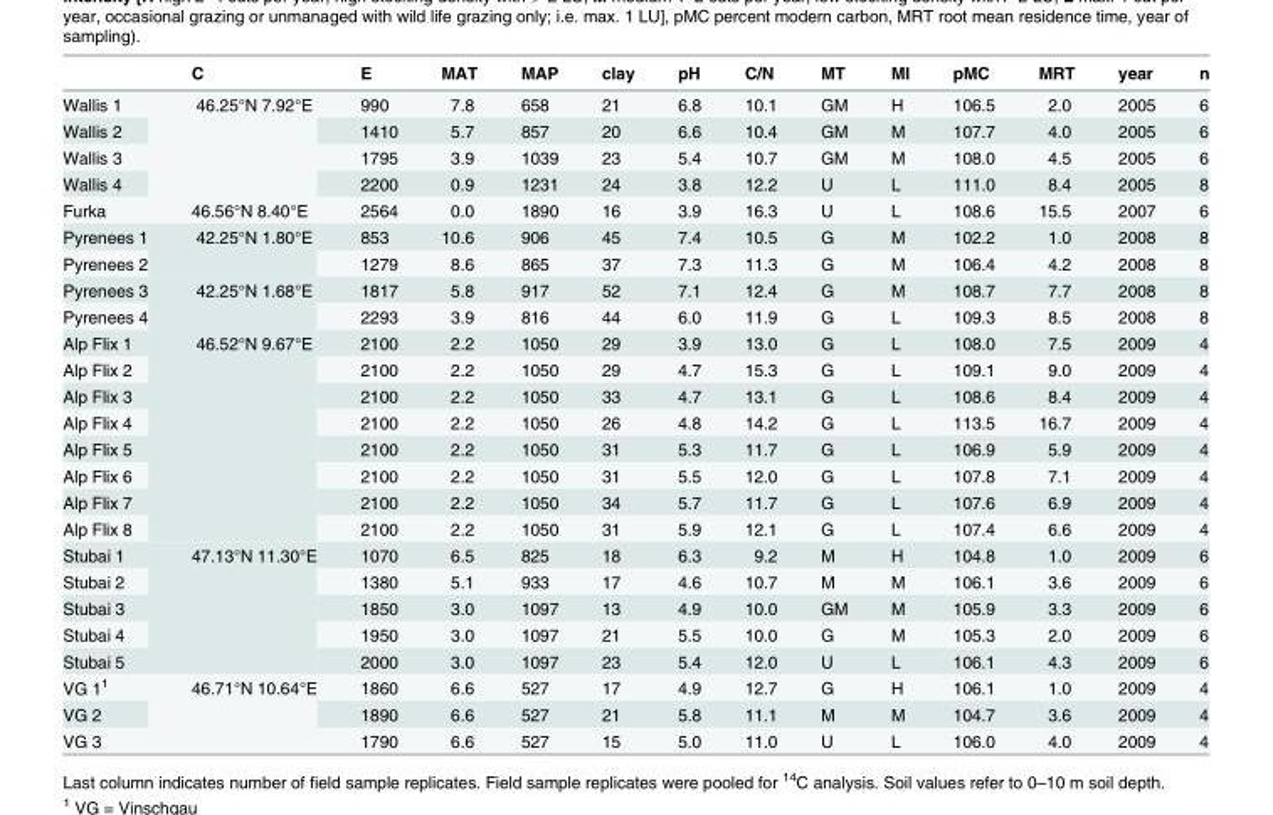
<table><thead><tr><td></td><td>C</td><td>E</td><td>MAT</td><td>MAP</td><td>clay</td><td>pH</td><td>C/N</td><td>MT</td><td>MI</td><td>pMC</td><td>MRT</td><td>year</td><td>n</td></tr></thead><tbody><tr><td>Wallis 1</td><td rowspan="4">46.25°N 7.92°E</td><td>990</td><td>7.8</td><td>658</td><td>21</td><td>6.8</td><td>10.1</td><td>GM</td><td>H</td><td>106.5</td><td>2.0</td><td>2005</td><td>6</td></tr><tr><td>Wallis 2</td><td>1410</td><td>5.7</td><td>857</td><td>20</td><td>6.6</td><td>10.4</td><td>GM</td><td>M</td><td>107.7</td><td>4.0</td><td>2005</td><td>6</td></tr><tr><td>Wallis 3</td><td>1795</td><td>3.9</td><td>1039</td><td>23</td><td>5.4</td><td>10.7</td><td>GM</td><td>M</td><td>108.0</td><td>4.5</td><td>2005</td><td>6</td></tr><tr><td>Wallis 4</td><td>2200</td><td>0.9</td><td>1231</td><td>24</td><td>3.8</td><td>12.2</td><td>U</td><td>L</td><td>111.0</td><td>8.4</td><td>2005</td><td>8</td></tr><tr><td>Furka</td><td>46.56°N 8.40°E</td><td>2564</td><td>0.0</td><td>1890</td><td>16</td><td>3.9</td><td>16.3</td><td>U</td><td>L</td><td>108.6</td><td>15.5</td><td>2007</td><td>6</td></tr><tr><td>Pyrenees 1</td><td rowspan="2">42.25°N 1.80°E</td><td>853</td><td>10.6</td><td>906</td><td>45</td><td>7.4</td><td>10.5</td><td>G</td><td>M</td><td>102.2</td><td>1.0</td><td>2008</td><td>8</td></tr><tr><td>Pyrenees 2</td><td>1279</td><td>8.6</td><td>865</td><td>37</td><td>7.3</td><td>11.3</td><td>G</td><td>M</td><td>106.4</td><td>4.2</td><td>2008</td><td>8</td></tr><tr><td>Pyrenees 3</td><td rowspan="2">42.25°N 1.68°E</td><td>1817</td><td>5.8</td><td>917</td><td>52</td><td>7.1</td><td>12.4</td><td>G</td><td>M</td><td>108.7</td><td>7.7</td><td>2008</td><td>8</td></tr><tr><td>Pyrenees 4</td><td>2293</td><td>3.9</td><td>816</td><td>44</td><td>6.0</td><td>11.9</td><td>G</td><td>L</td><td>109.3</td><td>8.5</td><td>2008</td><td>8</td></tr><tr><td>Alp Flix 1</td><td rowspan="8">46.52°N 9.67°E</td><td>2100</td><td>2.2</td><td>1050</td><td>29</td><td>3.9</td><td>13.0</td><td>G</td><td>L</td><td>108.0</td><td>7.5</td><td>2009</td><td>4</td></tr><tr><td>Alp Flix 2</td><td>2100</td><td>2.2</td><td>1050</td><td>29</td><td>4.7</td><td>15.3</td><td>G</td><td>L</td><td>109.1</td><td>9.0</td><td>2009</td><td>4</td></tr><tr><td>Alp Flix 3</td><td>2100</td><td>2.2</td><td>1050</td><td>33</td><td>4.7</td><td>13.1</td><td>G</td><td>L</td><td>108.6</td><td>8.4</td><td>2009</td><td>4</td></tr><tr><td>Alp Flix 4</td><td>2100</td><td>2.2</td><td>1050</td><td>26</td><td>4.8</td><td>14.2</td><td>G</td><td>L</td><td>113.5</td><td>16.7</td><td>2009</td><td>4</td></tr><tr><td>Alp Flix 5</td><td>2100</td><td>2.2</td><td>1050</td><td>31</td><td>5.3</td><td>11.7</td><td>G</td><td>L</td><td>106.9</td><td>5.9</td><td>2009</td><td>4</td></tr><tr><td>Alp Flix 6</td><td>2100</td><td>2.2</td><td>1050</td><td>31</td><td>5.5</td><td>12.0</td><td>G</td><td>L</td><td>107.8</td><td>7.1</td><td>2009</td><td>4</td></tr><tr><td>Alp Flix 7</td><td>2100</td><td>2.2</td><td>1050</td><td>34</td><td>5.7</td><td>11.7</td><td>G</td><td>L</td><td>107.6</td><td>6.9</td><td>2009</td><td>4</td></tr><tr><td>Alp Flix 8</td><td>2100</td><td>2.2</td><td>1050</td><td>31</td><td>5.9</td><td>12.1</td><td>G</td><td>L</td><td>107.4</td><td>6.6</td><td>2009</td><td>4</td></tr><tr><td>Stubai 1</td><td rowspan="5">47.13°N 11.30°E</td><td>1070</td><td>6.5</td><td>825</td><td>18</td><td>6.3</td><td>9.2</td><td>M</td><td>H</td><td>104.8</td><td>1.0</td><td>2009</td><td>6</td></tr><tr><td>Stubai 2</td><td>1380</td><td>5.1</td><td>933</td><td>17</td><td>4.6</td><td>10.7</td><td>M</td><td>M</td><td>106.1</td><td>3.6</td><td>2009</td><td>6</td></tr><tr><td>Stubai 3</td><td>1850</td><td>3.0</td><td>1097</td><td>13</td><td>4.9</td><td>10.0</td><td>GM</td><td>M</td><td>105.9</td><td>3.3</td><td>2009</td><td>6</td></tr><tr><td>Stubai 4</td><td>1950</td><td>3.0</td><td>1097</td><td>21</td><td>5.5</td><td>10.0</td><td>G</td><td>M</td><td>105.3</td><td>2.0</td><td>2009</td><td>6</td></tr><tr><td>Stubai 5</td><td>2000</td><td>3.0</td><td>1097</td><td>23</td><td>5.4</td><td>12.0</td><td>U</td><td>L</td><td>106.1</td><td>4.3</td><td>2009</td><td>6</td></tr><tr><td>VG 1<sup>1</sup></td><td rowspan="3">46.71°N 10.64°E</td><td>1860</td><td>6.6</td><td>527</td><td>17</td><td>4.9</td><td>12.7</td><td>G</td><td>H</td><td>106.1</td><td>1.0</td><td>2009</td><td>4</td></tr><tr><td>VG 2</td><td>1890</td><td>6.6</td><td>527</td><td>21</td><td>5.8</td><td>11.1</td><td>M</td><td>M</td><td>104.7</td><td>3.6</td><td>2009</td><td>4</td></tr><tr><td>VG 3</td><td>1790</td><td>6.6</td><td>527</td><td>15</td><td>5.0</td><td>11.0</td><td>U</td><td>L</td><td>106.0</td><td>4.0</td><td>2009</td><td>4</td></tr></tbody></table>